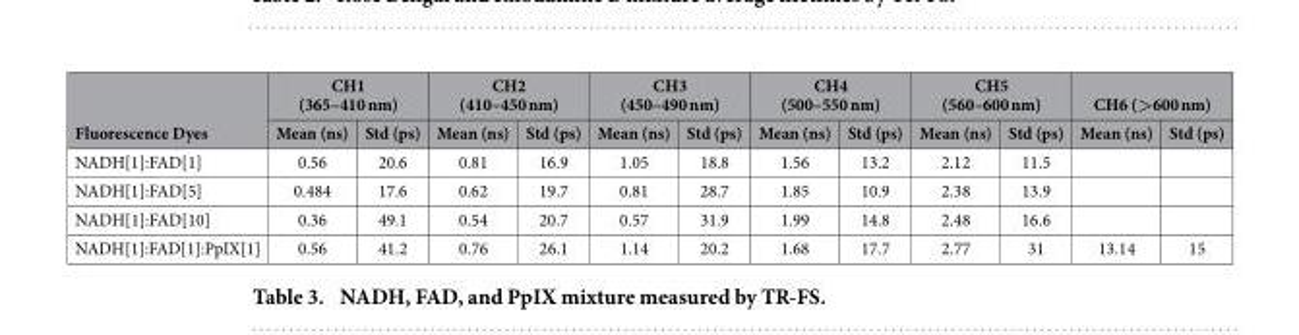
<table><thead><tr><td rowspan="2">Fluorescence Dyes</td><td colspan="2">CH1 (365–410 nm)</td><td colspan="2">CH2 (410–450 nm)</td><td colspan="2">CH3 (450–490 nm)</td><td colspan="2">CH4 (500–550 nm)</td><td colspan="2">CH5 (560–600 nm)</td><td colspan="2">CH6 (&gt;600 nm)</td></tr><tr><td>Mean (ns)</td><td>Std (ps)</td><td>Mean (ns)</td><td>Std (ps)</td><td>Mean (ns)</td><td>Std (ps)</td><td>Mean (ns)</td><td>Std (ps)</td><td>Mean (ns)</td><td>Std (ps)</td><td>Mean (ns)</td><td>Std (ps)</td></tr></thead><tbody><tr><td>NADH[1]:FAD[1]</td><td>0.56</td><td>20.6</td><td>0.81</td><td>16.9</td><td>1.05</td><td>18.8</td><td>1.56</td><td>13.2</td><td>2.12</td><td>11.5</td><td></td><td></td></tr><tr><td>NADH[1]:FAD[5]</td><td>0.484</td><td>17.6</td><td>0.62</td><td>19.7</td><td>0.81</td><td>28.7</td><td>1.85</td><td>10.9</td><td>2.38</td><td>13.9</td><td></td><td></td></tr><tr><td>NADH[1]:FAD[10]</td><td>0.36</td><td>49.1</td><td>0.54</td><td>20.7</td><td>0.57</td><td>31.9</td><td>1.99</td><td>14.8</td><td>2.48</td><td>16.6</td><td></td><td></td></tr><tr><td>NADH[1]:FAD[1]:PpIX[1]</td><td>0.56</td><td>41.2</td><td>0.76</td><td>26.1</td><td>1.14</td><td>20.2</td><td>1.68</td><td>17.7</td><td>2.77</td><td>31</td><td>13.14</td><td>15</td></tr></tbody></table>